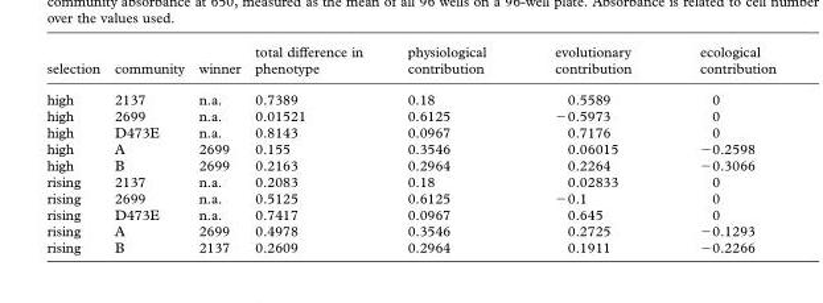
<table><thead><tr><td>selection</td><td>community</td><td>winner</td><td>total difference in phenotype</td><td>physiological contribution</td><td>evolutionary contribution</td><td>ecological contribution</td></tr></thead><tbody><tr><td>high</td><td>2137</td><td>n.a.</td><td>0.7389</td><td>0.18</td><td>0.5589</td><td>0</td></tr><tr><td>high</td><td>2699</td><td>n.a.</td><td>0.01521</td><td>0.6125</td><td>−0.5973</td><td>0</td></tr><tr><td>high</td><td>D473E</td><td>n.a.</td><td>0.8143</td><td>0.0967</td><td>0.7176</td><td>0</td></tr><tr><td>high</td><td>A</td><td>2699</td><td>0.155</td><td>0.3546</td><td>0.06015</td><td>−0.2598</td></tr><tr><td>high</td><td>B</td><td>2699</td><td>0.2163</td><td>0.2964</td><td>0.2264</td><td>−0.3066</td></tr><tr><td>rising</td><td>2137</td><td>n.a.</td><td>0.2083</td><td>0.18</td><td>0.02833</td><td>0</td></tr><tr><td>rising</td><td>2699</td><td>n.a.</td><td>0.5125</td><td>0.6125</td><td>−0.1</td><td>0</td></tr><tr><td>rising</td><td>D473E</td><td>n.a.</td><td>0.7417</td><td>0.0967</td><td>0.645</td><td>0</td></tr><tr><td>rising</td><td>A</td><td>2699</td><td>0.4978</td><td>0.3546</td><td>0.2725</td><td>−0.1293</td></tr><tr><td>rising</td><td>B</td><td>2137</td><td>0.2609</td><td>0.2964</td><td>0.1911</td><td>−0.2266</td></tr></tbody></table>